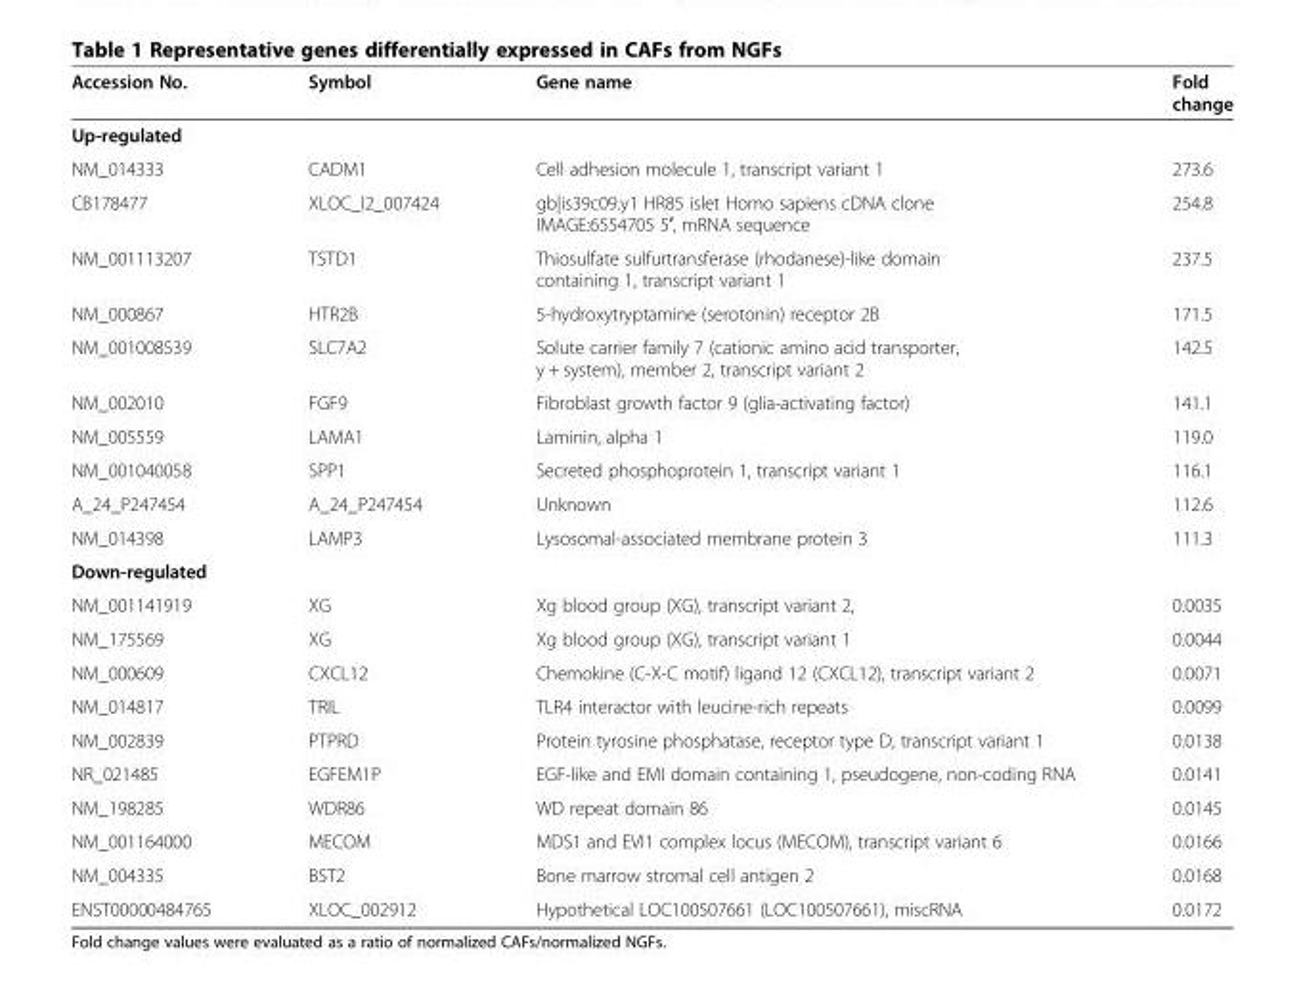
<table><thead><tr><td>Accession No.</td><td>Symbol</td><td>Gene name</td><td>Fold change</td></tr></thead><tbody><tr><td colspan="4">Up-regulated</td></tr><tr><td>NM_014333</td><td>CADM1</td><td>Cell adhesion molecule 1, transcript variant 1</td><td>273.6</td></tr><tr><td>CB178477</td><td>XLOC_l2_007424</td><td>gb|is39c09.y1 HR85 islet Homo sapiens cDNA clone IMAGE:6554705 5′, mRNA sequence</td><td>254.8</td></tr><tr><td>NM_001113207</td><td>TSTD1</td><td>Thiosulfate sulfurtransferase (rhodanese)-like domain containing 1, transcript variant 1</td><td>237.5</td></tr><tr><td>NM_000867</td><td>HTR2B</td><td>5-hydroxytryptamine (serotonin) receptor 2B</td><td>171.5</td></tr><tr><td>NM_001008539</td><td>SLC7A2</td><td>Solute carrier family 7 (cationic amino acid transporter, y + system), member 2, transcript variant 2</td><td>142.5</td></tr><tr><td>NM_002010</td><td>FGF9</td><td>Fibroblast growth factor 9 (glia-activating factor)</td><td>141.1</td></tr><tr><td>NM_005559</td><td>LAMA1</td><td>Laminin, alpha 1</td><td>119.0</td></tr><tr><td>NM_001040058</td><td>SPP1</td><td>Secreted phosphoprotein 1, transcript variant 1</td><td>116.1</td></tr><tr><td>A_24_P247454</td><td>A_24_P247454</td><td>Unknown</td><td>112.6</td></tr><tr><td>NM_014398</td><td>LAMP3</td><td>Lysosomal-associated membrane protein 3</td><td>111.3</td></tr><tr><td colspan="4">Down-regulated</td></tr><tr><td>NM_001141919</td><td>XG</td><td>Xg blood group (XG), transcript variant 2,</td><td>0.0035</td></tr><tr><td>NM_175569</td><td>XG</td><td>Xg blood group (XG), transcript variant 1</td><td>0.0044</td></tr><tr><td>NM_000609</td><td>CXCL12</td><td>Chemokine (C-X-C motif) ligand 12 (CXCL12), transcript variant 2</td><td>0.0071</td></tr><tr><td>NM_014817</td><td>TRIL</td><td>TLR4 interactor with leucine-rich repeats</td><td>0.0099</td></tr><tr><td>NM_002839</td><td>PTPRD</td><td>Protein tyrosine phosphatase, receptor type D, transcript variant 1</td><td>0.0138</td></tr><tr><td>NR_021485</td><td>EGFEM1P</td><td>EGF-like and EMI domain containing 1, pseudogene, non-coding RNA</td><td>0.0141</td></tr><tr><td>NM_198285</td><td>WDR86</td><td>WD repeat domain 86</td><td>0.0145</td></tr><tr><td>NM_001164000</td><td>MECOM</td><td>MDS1 and EVI1 complex locus (MECOM), transcript variant 6</td><td>0.0166</td></tr><tr><td>NM_004335</td><td>BST2</td><td>Bone marrow stromal cell antigen 2</td><td>0.0168</td></tr><tr><td>ENST00000484765</td><td>XLOC_002912</td><td>Hypothetical LOC100507661 (LOC100507661), miscRNA</td><td>0.0172</td></tr></tbody></table>